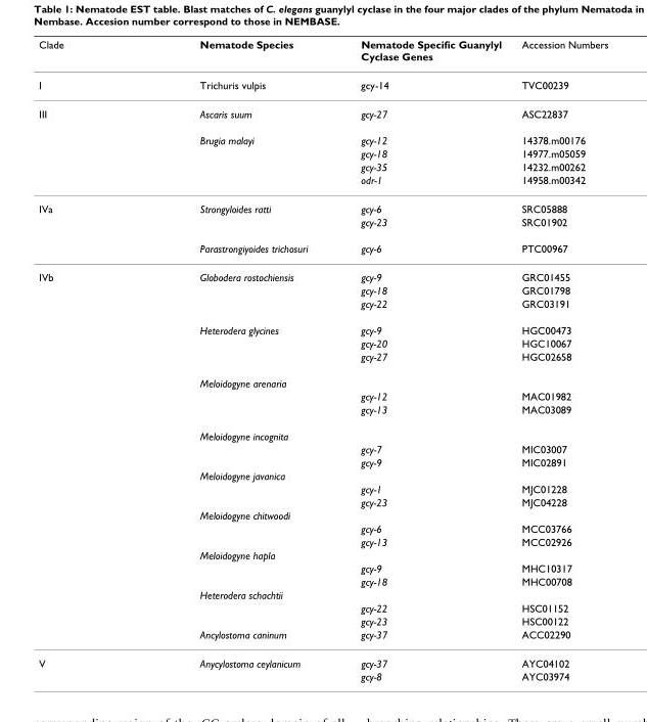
<table><thead><tr><td>Clade</td><td>Nematode Species</td><td>Nematode Specific Guanylyl Cyclase Genes</td><td>Accession Numbers</td></tr></thead><tbody><tr><td>I</td><td>Trichuris vulpis</td><td>gcy-14</td><td>TVC00239</td></tr><tr><td rowspan="5">III</td><td>Ascaris suum</td><td>gcy-27</td><td>ASC22837</td></tr><tr><td>Brugia malayi</td><td>gcy-12</td><td>14378.m00176</td></tr><tr><td></td><td>gcy-18</td><td>14977.m05059</td></tr><tr><td></td><td>gcy-35</td><td>14232.m00262</td></tr><tr><td></td><td>odr-1</td><td>14958.m00342</td></tr><tr><td rowspan="3">IVa</td><td>Strongyloides ratti</td><td>gcy-6</td><td>SRC05888</td></tr><tr><td></td><td>gcy-23</td><td>SRC01902</td></tr><tr><td>Parastrongiyoides trichosuri</td><td>gcy-6</td><td>PTC00967</td></tr><tr><td rowspan="25">IVb</td><td>Globodera rostochiensis</td><td>gcy-9</td><td>GRC01455</td></tr><tr><td></td><td>gcy-18</td><td>GRC01798</td></tr><tr><td></td><td>gcy-22</td><td>GRC03191</td></tr><tr><td>Heterodera glycines</td><td>gcy-9</td><td>HGC00473</td></tr><tr><td></td><td>gcy-20</td><td>HGC10067</td></tr><tr><td></td><td>gcy-27</td><td>HGC02658</td></tr><tr><td>Meloidogyne arenaria</td><td></td><td></td></tr><tr><td></td><td>gcy-12</td><td>MAC01982</td></tr><tr><td></td><td>gcy-13</td><td>MAC03089</td></tr><tr><td>Meloidogyne incognita</td><td></td><td></td></tr><tr><td></td><td>gcy-7</td><td>MIC03007</td></tr><tr><td></td><td>gcy-9</td><td>MIC02891</td></tr><tr><td>Meloidogyne javanica</td><td></td><td></td></tr><tr><td></td><td>gcy-1</td><td>MJC01228</td></tr><tr><td></td><td>gcy-23</td><td>MJC04228</td></tr><tr><td>Meloidogyne chitwoodi</td><td></td><td></td></tr><tr><td></td><td>gcy-6</td><td>MCC03766</td></tr><tr><td></td><td>gcy-13</td><td>MCC02926</td></tr><tr><td>Meloidogyne hapla</td><td></td><td></td></tr><tr><td></td><td>gcy-9</td><td>MHC10317</td></tr><tr><td></td><td>gcy-18</td><td>MHC00708</td></tr><tr><td>Heterodera schachtii</td><td></td><td></td></tr><tr><td></td><td>gcy-22</td><td>HSC01152</td></tr><tr><td></td><td>gcy-23</td><td>HSC00122</td></tr><tr><td>Ancylostoma caninum</td><td>gcy-37</td><td>ACC02290</td></tr><tr><td rowspan="2">V</td><td>Anycylostoma ceylanicum</td><td>gcy-37</td><td>AYC04102</td></tr><tr><td></td><td>gcy-8</td><td>AYC03974</td></tr></tbody></table>